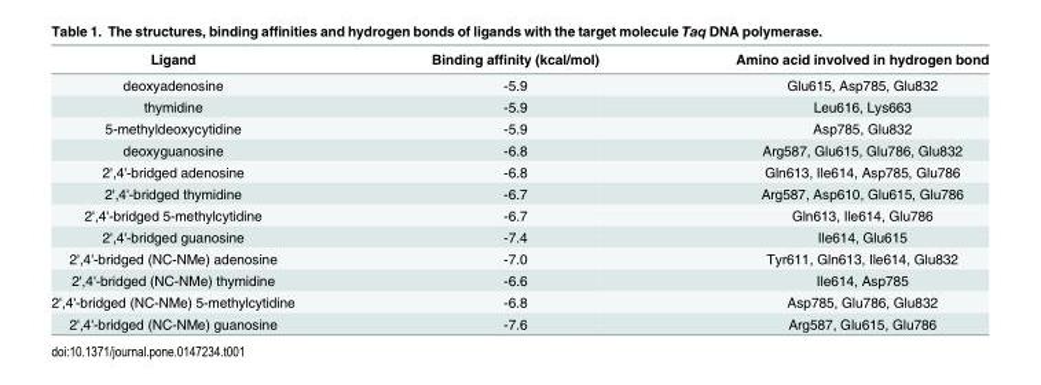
<table><thead><tr><td>Ligand</td><td>Binding affinity (kcal/mol)</td><td>Amino acid involved in hydrogen bond</td></tr></thead><tbody><tr><td>deoxyadenosine</td><td>-5.9</td><td>Glu615, Asp785, Glu832</td></tr><tr><td>thymidine</td><td>-5.9</td><td>Leu616, Lys663</td></tr><tr><td>5-methyldeoxycytidine</td><td>-5.9</td><td>Asp785, Glu832</td></tr><tr><td>deoxyguanosine</td><td>-6.8</td><td>Arg587, Glu615, Glu786, Glu832</td></tr><tr><td>2&#x27;,4&#x27;-bridged adenosine</td><td>-6.8</td><td>Gln613, Ile614, Asp785, Glu786</td></tr><tr><td>2&#x27;,4&#x27;-bridged thymidine</td><td>-6.7</td><td>Arg587, Asp610, Glu615, Glu786</td></tr><tr><td>2&#x27;,4&#x27;-bridged 5-methylcytidine</td><td>-6.7</td><td>Gln613, Ile614, Glu786</td></tr><tr><td>2&#x27;,4&#x27;-bridged guanosine</td><td>-7.4</td><td>Ile614, Glu615</td></tr><tr><td>2&#x27;,4&#x27;-bridged (NC-NMe) adenosine</td><td>-7.0</td><td>Tyr611, Gln613, Ile614, Glu832</td></tr><tr><td>2&#x27;,4&#x27;-bridged (NC-NMe) thymidine</td><td>-6.6</td><td>Ile614, Asp785</td></tr><tr><td>2&#x27;,4&#x27;-bridged (NC-NMe) 5-methylcytidine</td><td>-6.8</td><td>Asp785, Glu786, Glu832</td></tr><tr><td>2&#x27;,4&#x27;-bridged (NC-NMe) guanosine</td><td>-7.6</td><td>Arg587, Glu615, Glu786</td></tr></tbody></table>